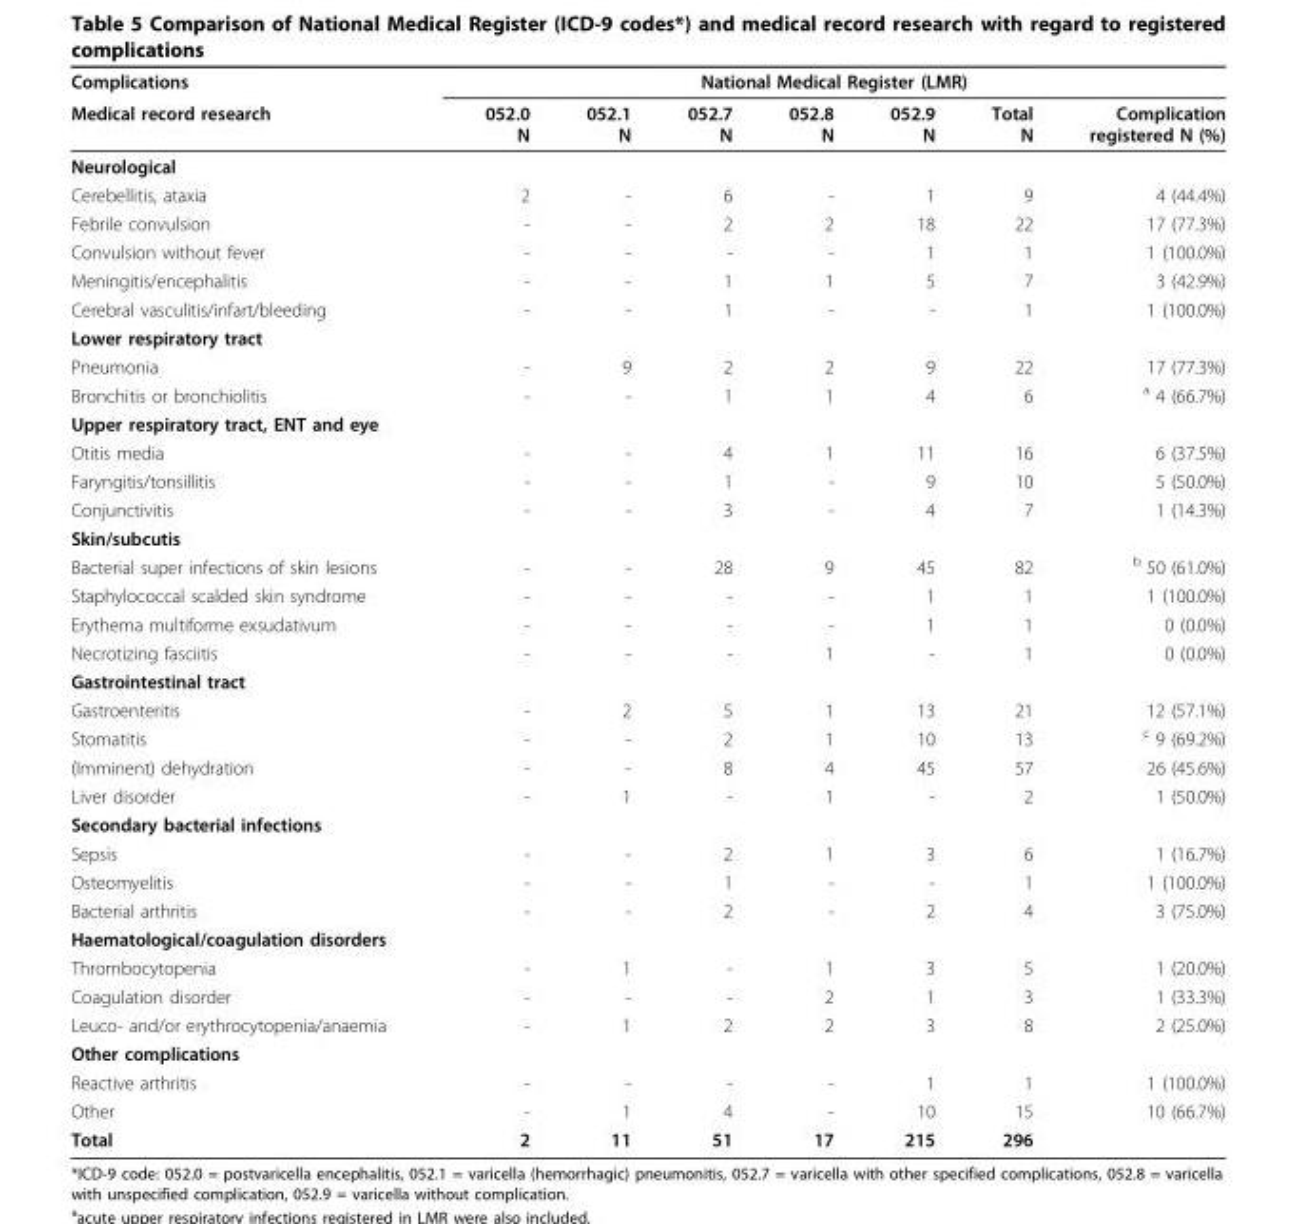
<table><thead><tr><td rowspan="2">Complications Medical record research</td><td colspan="7">National Medical Register (LMR)</td></tr><tr><td>052.0 N</td><td>052.1 N</td><td>052.7 N</td><td>052.8 N</td><td>052.9 N</td><td>Total N</td><td>Complication registered N (%)</td></tr></thead><tbody><tr><td colspan="8">Neurological</td></tr><tr><td>Cerebellitis, ataxia</td><td>2</td><td>-</td><td>6</td><td>-</td><td>1</td><td>9</td><td>4 (44.4%)</td></tr><tr><td>Febrile convulsion</td><td>-</td><td>-</td><td>2</td><td>2</td><td>18</td><td>22</td><td>17 (77.3%)</td></tr><tr><td>Convulsion without fever</td><td>-</td><td>-</td><td>-</td><td>-</td><td>1</td><td>1</td><td>1 (100.0%)</td></tr><tr><td>Meningitis/encephalitis</td><td>-</td><td>-</td><td>1</td><td>1</td><td>5</td><td>7</td><td>3 (42.9%)</td></tr><tr><td>Cerebral vasculitis/infart/bleeding</td><td>-</td><td>-</td><td>1</td><td>-</td><td>-</td><td>1</td><td>1 (100.0%)</td></tr><tr><td colspan="8">Lower respiratory tract</td></tr><tr><td>Pneumonia</td><td>-</td><td>9</td><td>2</td><td>2</td><td>9</td><td>22</td><td>17 (77.3%)</td></tr><tr><td>Bronchitis or bronchiolitis</td><td>-</td><td>-</td><td>1</td><td>1</td><td>4</td><td>6</td><td><sup>a</sup> 4 (66.7%)</td></tr><tr><td colspan="8">Upper respiratory tract, ENT and eye</td></tr><tr><td>Otitis media</td><td>-</td><td>-</td><td>4</td><td>1</td><td>11</td><td>16</td><td>6 (37.5%)</td></tr><tr><td>Faryngitis/tonsillitis</td><td>-</td><td>-</td><td>1</td><td>-</td><td>9</td><td>10</td><td>5 (50.0%)</td></tr><tr><td>Conjunctivitis</td><td>-</td><td>-</td><td>3</td><td>-</td><td>4</td><td>7</td><td>1 (14.3%)</td></tr><tr><td colspan="8">Skin/subcutis</td></tr><tr><td>Bacterial super infections of skin lesions</td><td>-</td><td>-</td><td>28</td><td>9</td><td>45</td><td>82</td><td><sup>b</sup> 50 (61.0%)</td></tr><tr><td>Staphylococcal scalded skin syndrome</td><td>-</td><td>-</td><td>-</td><td>-</td><td>1</td><td>1</td><td>1 (100.0%)</td></tr><tr><td>Erythema multiforme exsudativum</td><td>-</td><td>-</td><td>-</td><td>-</td><td>1</td><td>1</td><td>0 (0.0%)</td></tr><tr><td>Necrotizing fasciitis</td><td>-</td><td>-</td><td>-</td><td>1</td><td>-</td><td>1</td><td>0 (0.0%)</td></tr><tr><td colspan="8">Gastrointestinal tract</td></tr><tr><td>Gastroenteritis</td><td>-</td><td>2</td><td>5</td><td>1</td><td>13</td><td>21</td><td>12 (57.1%)</td></tr><tr><td>Stomatitis</td><td>-</td><td>-</td><td>2</td><td>1</td><td>10</td><td>13</td><td><sup>c</sup> 9 (69.2%)</td></tr><tr><td>(Imminent) dehydration</td><td>-</td><td>-</td><td>8</td><td>4</td><td>45</td><td>57</td><td>26 (45.6%)</td></tr><tr><td>Liver disorder</td><td>-</td><td>1</td><td>-</td><td>1</td><td>-</td><td>2</td><td>1 (50.0%)</td></tr><tr><td colspan="8">Secondary bacterial infections</td></tr><tr><td>Sepsis</td><td>-</td><td>-</td><td>2</td><td>1</td><td>3</td><td>6</td><td>1 (16.7%)</td></tr><tr><td>Osteomyelitis</td><td>-</td><td>-</td><td>1</td><td>-</td><td>-</td><td>1</td><td>1 (100.0%)</td></tr><tr><td>Bacterial arthritis</td><td>-</td><td>-</td><td>2</td><td>-</td><td>2</td><td>4</td><td>3 (75.0%)</td></tr><tr><td colspan="8">Haematological/coagulation disorders</td></tr><tr><td>Thrombocytopenia</td><td>-</td><td>1</td><td>-</td><td>1</td><td>3</td><td>5</td><td>1 (20.0%)</td></tr><tr><td>Coagulation disorder</td><td>-</td><td>-</td><td>-</td><td>2</td><td>1</td><td>3</td><td>1 (33.3%)</td></tr><tr><td>Leuco- and/or erythrocytopenia/anaemia</td><td>-</td><td>1</td><td>2</td><td>2</td><td>3</td><td>8</td><td>2 (25.0%)</td></tr><tr><td colspan="8">Other complications</td></tr><tr><td>Reactive arthritis</td><td>-</td><td>-</td><td>-</td><td>-</td><td>1</td><td>1</td><td>1 (100.0%)</td></tr><tr><td>Other</td><td>-</td><td>1</td><td>4</td><td>-</td><td>10</td><td>15</td><td>10 (66.7%)</td></tr><tr><td>Total</td><td>2</td><td>11</td><td>51</td><td>17</td><td>215</td><td>296</td><td></td></tr></tbody></table>